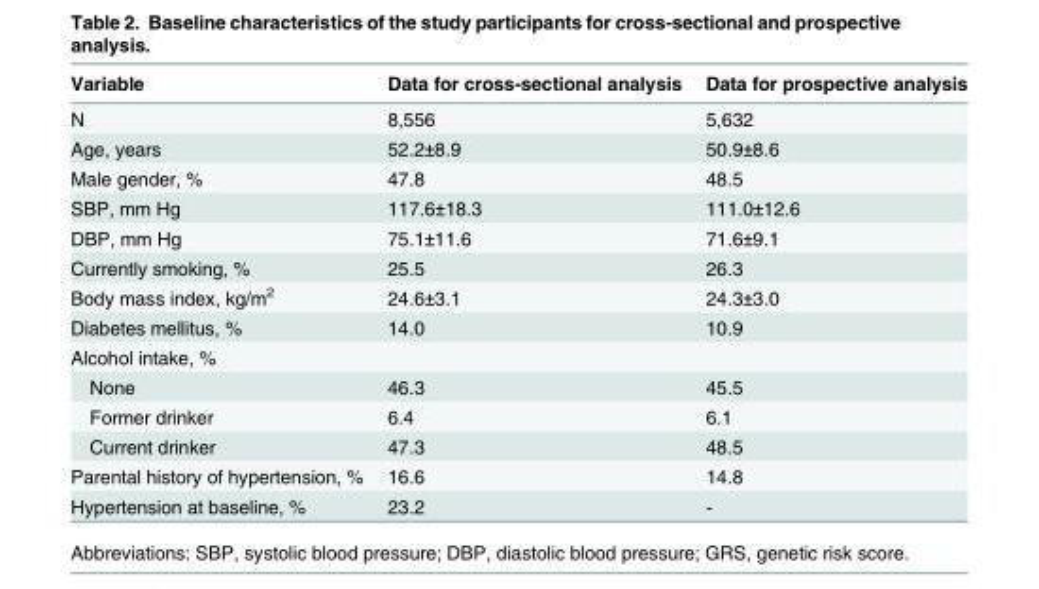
<table><thead><tr><td>Variable</td><td>Data for cross-sectional analysis</td><td>Data for prospective analysis</td></tr></thead><tbody><tr><td>N</td><td>8,556</td><td>5,632</td></tr><tr><td>Age, years</td><td>52.2±8.9</td><td>50.9±8.6</td></tr><tr><td>Male gender, %</td><td>47.8</td><td>48.5</td></tr><tr><td>SBP, mm Hg</td><td>117.6±18.3</td><td>111.0±12.6</td></tr><tr><td>DBP, mm Hg</td><td>75.1±11.6</td><td>71.6±9.1</td></tr><tr><td>Currently smoking, %</td><td>25.5</td><td>26.3</td></tr><tr><td>Body mass index, kg/m<sup>2</sup></td><td>24.6±3.1</td><td>24.3±3.0</td></tr><tr><td>Diabetes mellitus, %</td><td>14.0</td><td>10.9</td></tr><tr><td colspan="3">Alcohol intake, %</td></tr><tr><td>None</td><td>46.3</td><td>45.5</td></tr><tr><td>Former drinker</td><td>6.4</td><td>6.1</td></tr><tr><td>Current drinker</td><td>47.3</td><td>48.5</td></tr><tr><td>Parental history of hypertension, %</td><td>16.6</td><td>14.8</td></tr><tr><td>Hypertension at baseline, %</td><td>23.2</td><td>-</td></tr></tbody></table>